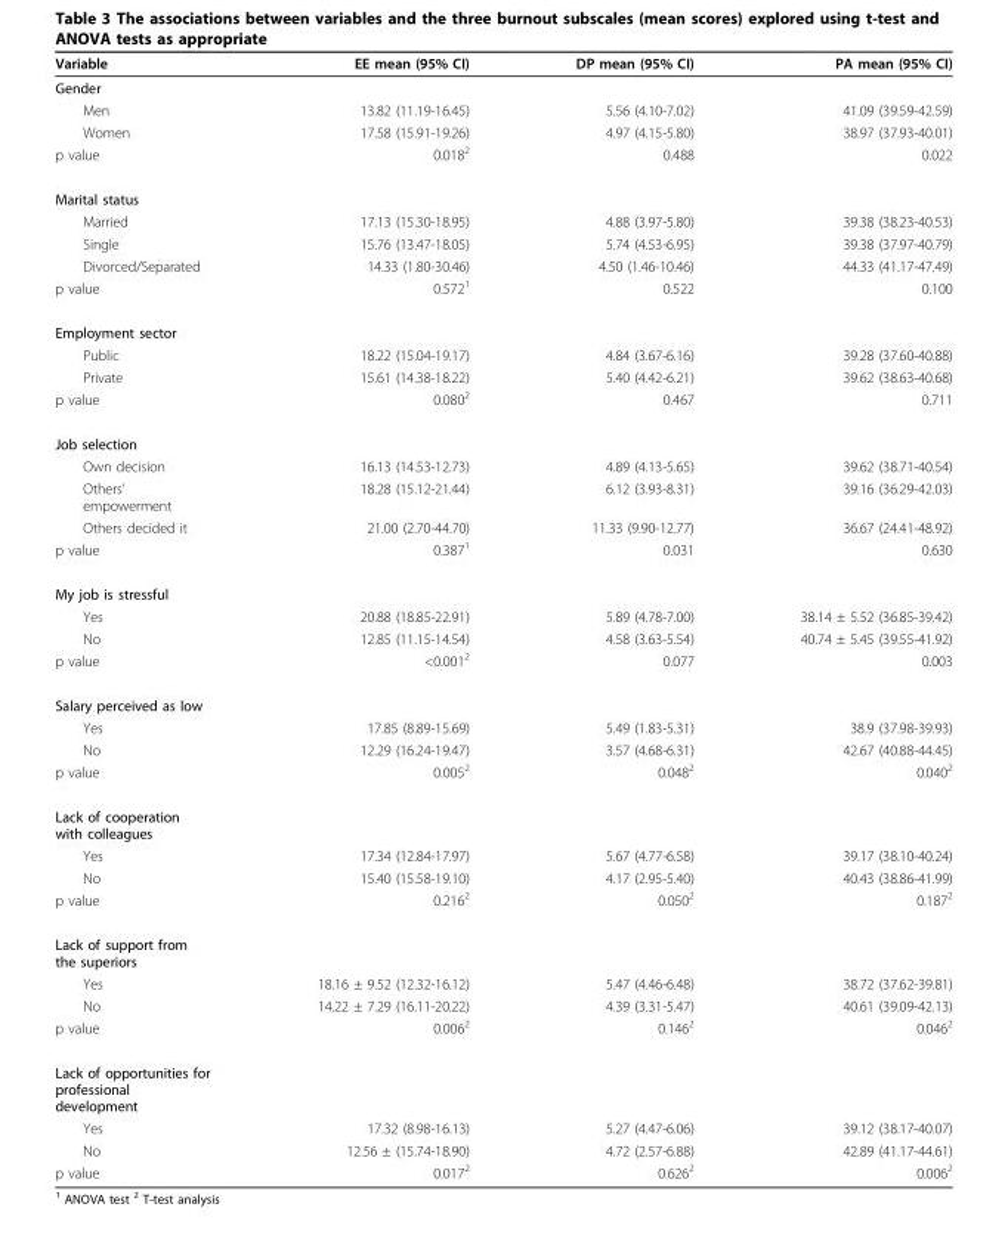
<table><thead><tr><td>Variable</td><td>EE mean (95% CI)</td><td>DP mean (95% CI)</td><td>PA mean (95% CI)</td></tr></thead><tbody><tr><td colspan="4">Gender</td></tr><tr><td>Men</td><td>13.82 (11.19-16.45)</td><td>5.56 (4.10-7.02)</td><td>41.09 (39.59-42.59)</td></tr><tr><td>Women</td><td>17.58 (15.91-19.26)</td><td>4.97 (4.15-5.80)</td><td>38.97 (37.93-40.01)</td></tr><tr><td>p value</td><td>0.018<sup>2</sup></td><td>0.488</td><td>0.022</td></tr><tr><td colspan="4">Marital status</td></tr><tr><td>Married</td><td>17.13 (15.30-18.95)</td><td>4.88 (3.97-5.80)</td><td>39.38 (38.23-40.53)</td></tr><tr><td>Single</td><td>15.76 (13.47-18.05)</td><td>5.74 (4.53-6.95)</td><td>39.38 (37.97-40.79)</td></tr><tr><td>Divorced/Separated</td><td>14.33 (1.80-30.46)</td><td>4.50 (1.46-10.46)</td><td>44.33 (41.17-47.49)</td></tr><tr><td>p value</td><td>0.572<sup>1</sup></td><td>0.522</td><td>0.100</td></tr><tr><td colspan="4">Employment sector</td></tr><tr><td>Public</td><td>18.22 (15.04-19.17)</td><td>4.84 (3.67-6.16)</td><td>39.28 (37.60-40.88)</td></tr><tr><td>Private</td><td>15.61 (14.38-18.22)</td><td>5.40 (4.42-6.21)</td><td>39.62 (38.63-40.68)</td></tr><tr><td>p value</td><td>0.080<sup>2</sup></td><td>0.467</td><td>0.711</td></tr><tr><td colspan="4">Job selection</td></tr><tr><td>Own decision</td><td>16.13 (14.53-12.73)</td><td>4.89 (4.13-5.65)</td><td>39.62 (38.71-40.54)</td></tr><tr><td>Others’ empowerment</td><td>18.28 (15.12-21.44)</td><td>6.12 (3.93-8.31)</td><td>39.16 (36.29-42.03)</td></tr><tr><td>Others decided it</td><td>21.00 (2.70-44.70)</td><td>11.33 (9.90-12.77)</td><td>36.67 (24.41-48.92)</td></tr><tr><td>p value</td><td>0.387<sup>1</sup></td><td>0.031</td><td>0.630</td></tr><tr><td colspan="4">My job is stressful</td></tr><tr><td>Yes</td><td>20.88 (18.85-22.91)</td><td>5.89 (4.78-7.00)</td><td>38.14 ± 5.52 (36.85-39.42)</td></tr><tr><td>No</td><td>12.85 (11.15-14.54)</td><td>4.58 (3.63-5.54)</td><td>40.74 ± 5.45 (39.55-41.92)</td></tr><tr><td>p value</td><td>&lt;0.001<sup>2</sup></td><td>0.077</td><td>0.003</td></tr><tr><td colspan="4">Salary perceived as low</td></tr><tr><td>Yes</td><td>17.85 (8.89-15.69)</td><td>5.49 (1.83-5.31)</td><td>38.9 (37.98-39.93)</td></tr><tr><td>No</td><td>12.29 (16.24-19.47)</td><td>3.57 (4.68-6.31)</td><td>42.67 (40.88-44.45)</td></tr><tr><td>p value</td><td>0.005<sup>2</sup></td><td>0.048<sup>2</sup></td><td>0.040<sup>2</sup></td></tr><tr><td colspan="4">Lack of cooperation with colleagues</td></tr><tr><td>Yes</td><td>17.34 (12.84-17.97)</td><td>5.67 (4.77-6.58)</td><td>39.17 (38.10-40.24)</td></tr><tr><td>No</td><td>15.40 (15.58-19.10)</td><td>4.17 (2.95-5.40)</td><td>40.43 (38.86-41.99)</td></tr><tr><td>p value</td><td>0.216<sup>2</sup></td><td>0.050<sup>2</sup></td><td>0.187<sup>2</sup></td></tr><tr><td colspan="4">Lack of support from the superiors</td></tr><tr><td>Yes</td><td>18.16 ± 9.52 (12.32-16.12)</td><td>5.47 (4.46-6.48)</td><td>38.72 (37.62-39.81)</td></tr><tr><td>No</td><td>14.22 ± 7.29 (16.11-20.22)</td><td>4.39 (3.31-5.47)</td><td>40.61 (39.09-42.13)</td></tr><tr><td>p value</td><td>0.006<sup>2</sup></td><td>0.146<sup>2</sup></td><td>0.046<sup>2</sup></td></tr><tr><td colspan="4">Lack of opportunities for professional development</td></tr><tr><td>Yes</td><td>17.32 (8.98-16.13)</td><td>5.27 (4.47-6.06)</td><td>39.12 (38.17-40.07)</td></tr><tr><td>No</td><td>12.56 ± (15.74-18.90)</td><td>4.72 (2.57-6.88)</td><td>42.89 (41.17-44.61)</td></tr><tr><td>p value</td><td>0.017<sup>2</sup></td><td>0.626<sup>2</sup></td><td>0.006<sup>2</sup></td></tr></tbody></table>